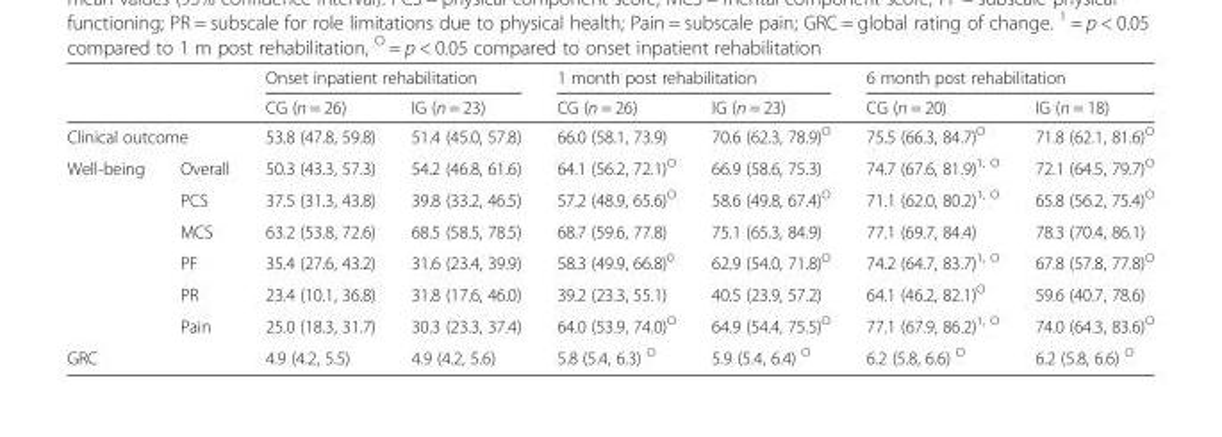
<table><thead><tr><td rowspan="2"></td><td rowspan="2"></td><td colspan="2">Onset inpatient rehabilitation</td><td colspan="2">1 month post rehabilitation</td><td colspan="2">6 month post rehabilitation</td></tr><tr><td>CG (n = 26)</td><td>IG (n = 23)</td><td>CG (n = 26)</td><td>IG (n = 23)</td><td>CG (n = 20)</td><td>IG (n = 18)</td></tr></thead><tbody><tr><td colspan="2">Clinical outcome</td><td>53.8 (47.8, 59.8)</td><td>51.4 (45.0, 57.8)</td><td>66.0 (58.1, 73.9)</td><td>70.6 (62.3, 78.9)<sup>O</sup></td><td>75.5 (66.3, 84.7)<sup>O</sup></td><td>71.8 (62.1, 81.6)<sup>O</sup></td></tr><tr><td rowspan="6">Well-being</td><td>Overall</td><td>50.3 (43.3, 57.3)</td><td>54.2 (46.8, 61.6)</td><td>64.1 (56.2, 72.1)<sup>O</sup></td><td>66.9 (58.6, 75.3)</td><td>74.7 (67.6, 81.9)<sup>1, O</sup></td><td>72.1 (64.5, 79.7)<sup>O</sup></td></tr><tr><td>PCS</td><td>37.5 (31.3, 43.8)</td><td>39.8 (33.2, 46.5)</td><td>57.2 (48.9, 65.6)<sup>O</sup></td><td>58.6 (49.8, 67.4)<sup>O</sup></td><td>71.1 (62.0, 80.2)<sup>1, O</sup></td><td>65.8 (56.2, 75.4)<sup>O</sup></td></tr><tr><td>MCS</td><td>63.2 (53.8, 72.6)</td><td>68.5 (58.5, 78.5)</td><td>68.7 (59.6, 77.8)</td><td>75.1 (65.3, 84.9)</td><td>77.1 (69.7, 84.4)</td><td>78.3 (70.4, 86.1)</td></tr><tr><td>PF</td><td>35.4 (27.6, 43.2)</td><td>31.6 (23.4, 39.9)</td><td>58.3 (49.9, 66.8)<sup>0</sup></td><td>62.9 (54.0, 71.8)<sup>O</sup></td><td>74.2 (64.7, 83.7)<sup>1, O</sup></td><td>67.8 (57.8, 77.8)<sup>O</sup></td></tr><tr><td>PR</td><td>23.4 (10.1, 36.8)</td><td>31.8 (17.6, 46.0)</td><td>39.2 (23.3, 55.1)</td><td>40.5 (23.9, 57.2)</td><td>64.1 (46.2, 82.1)<sup>O</sup></td><td>59.6 (40.7, 78.6)</td></tr><tr><td>Pain</td><td>25.0 (18.3, 31.7)</td><td>30.3 (23.3, 37.4)</td><td>64.0 (53.9, 74.0)<sup>O</sup></td><td>64.9 (54.4, 75.5)<sup>O</sup></td><td>77.1 (67.9, 86.2)<sup>1, O</sup></td><td>74.0 (64.3, 83.6)<sup>O</sup></td></tr><tr><td colspan="2">GRC</td><td>4.9 (4.2, 5.5)</td><td>4.9 (4.2, 5.6)</td><td>5.8 (5.4, 6.3) <sup>O</sup></td><td>5.9 (5.4, 6.4) <sup>O</sup></td><td>6.2 (5.8, 6.6) <sup>O</sup></td><td>6.2 (5.8, 6.6) <sup>O</sup></td></tr></tbody></table>